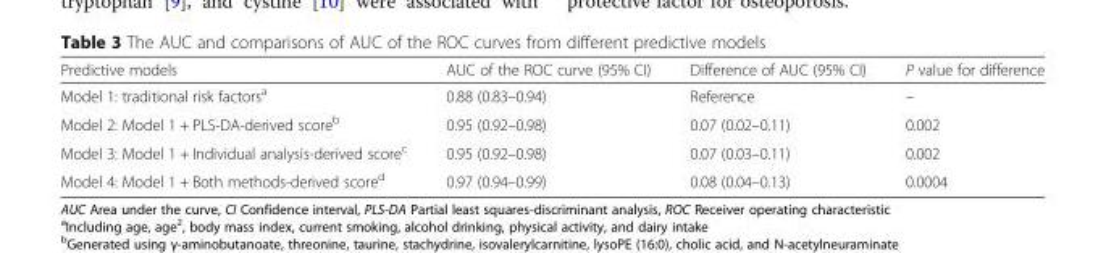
<table><thead><tr><td>Predictive models</td><td>AUC of the ROC curve (95% CI)</td><td>Difference of AUC (95% CI)</td><td>P value for difference</td></tr></thead><tbody><tr><td>Model 1: traditional risk factors<sup>a</sup></td><td>0.88 (0.83–0.94)</td><td>Reference</td><td>–</td></tr><tr><td>Model 2: Model 1 + PLS-DA-derived score<sup>b</sup></td><td>0.95 (0.92–0.98)</td><td>0.07 (0.02–0.11)</td><td>0.002</td></tr><tr><td>Model 3: Model 1 + Individual analysis-derived score<sup>c</sup></td><td>0.95 (0.92–0.98)</td><td>0.07 (0.03–0.11)</td><td>0.002</td></tr><tr><td>Model 4: Model 1 + Both methods-derived score<sup>d</sup></td><td>0.97 (0.94–0.99)</td><td>0.08 (0.04–0.13)</td><td>0.0004</td></tr></tbody></table>